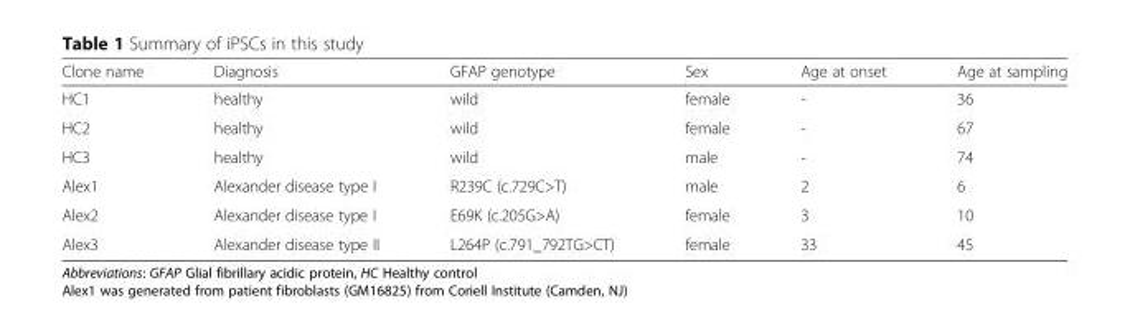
<table><thead><tr><td>Clone name</td><td>Diagnosis</td><td>GFAP genotype</td><td>Sex</td><td>Age at onset</td><td>Age at sampling</td></tr></thead><tbody><tr><td>HC1</td><td>healthy</td><td>wild</td><td>female</td><td>-</td><td>36</td></tr><tr><td>HC2</td><td>healthy</td><td>wild</td><td>female</td><td>-</td><td>67</td></tr><tr><td>HC3</td><td>healthy</td><td>wild</td><td>male</td><td>-</td><td>74</td></tr><tr><td>Alex1</td><td>Alexander disease type I</td><td>R239C (c.729C&gt;T)</td><td>male</td><td>2</td><td>6</td></tr><tr><td>Alex2</td><td>Alexander disease type I</td><td>E69K (c.205G&gt;A)</td><td>female</td><td>3</td><td>10</td></tr><tr><td>Alex3</td><td>Alexander disease type II</td><td>L264P (c.791_792TG&gt;CT)</td><td>female</td><td>33</td><td>45</td></tr></tbody></table>